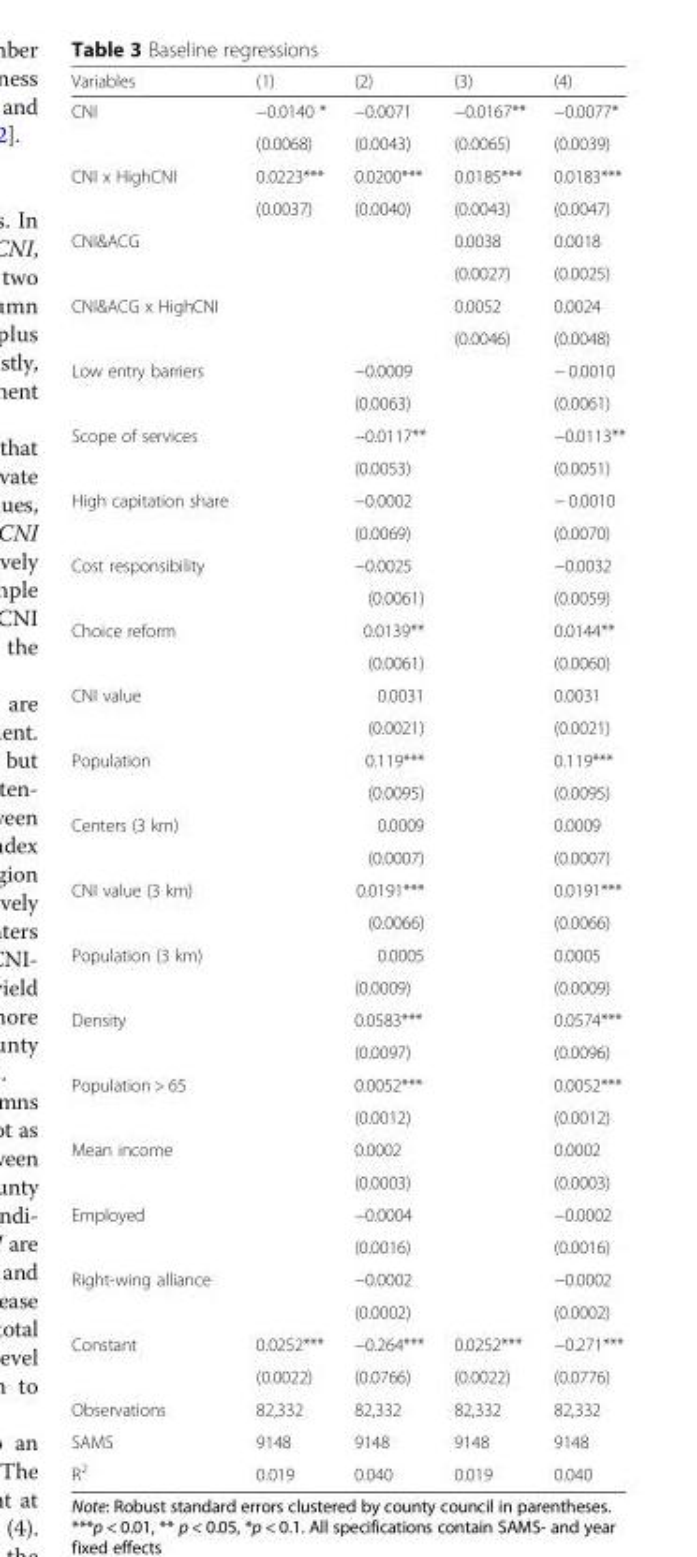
<table><thead><tr><td>Variables</td><td>(1)</td><td>(2)</td><td>(3)</td><td>(4)</td></tr></thead><tbody><tr><td rowspan="2">CNI</td><td>−0.0140 *</td><td>−0.0071</td><td>−0.0167**</td><td>−0.0077*</td></tr><tr><td>(0.0068)</td><td>(0.0043)</td><td>(0.0065)</td><td>(0.0039)</td></tr><tr><td rowspan="2">CNI x HighCNI</td><td>0.0223***</td><td>0.0200***</td><td>0.0185***</td><td>0.0183***</td></tr><tr><td>(0.0037)</td><td>(0.0040)</td><td>(0.0043)</td><td>(0.0047)</td></tr><tr><td rowspan="2">CNI&amp;ACG</td><td></td><td></td><td>0.0038</td><td>0.0018</td></tr><tr><td></td><td></td><td>(0.0027)</td><td>(0.0025)</td></tr><tr><td rowspan="2">CNI&amp;ACG x HighCNI</td><td></td><td></td><td>0.0052</td><td>0.0024</td></tr><tr><td></td><td></td><td>(0.0046)</td><td>(0.0048)</td></tr><tr><td rowspan="2">Low entry barriers</td><td></td><td>−0.0009</td><td></td><td>− 0.0010</td></tr><tr><td></td><td>(0.0063)</td><td></td><td>(0.0061)</td></tr><tr><td rowspan="2">Scope of services</td><td></td><td>−0.0117**</td><td></td><td>−0.0113**</td></tr><tr><td></td><td>(0.0053)</td><td></td><td>(0.0051)</td></tr><tr><td rowspan="2">High capitation share</td><td></td><td>−0.0002</td><td></td><td>− 0.0010</td></tr><tr><td></td><td>(0.0069)</td><td></td><td>(0.0070)</td></tr><tr><td rowspan="2">Cost responsibility</td><td></td><td>−0.0025</td><td></td><td>−0.0032</td></tr><tr><td></td><td>(0.0061)</td><td></td><td>(0.0059)</td></tr><tr><td rowspan="2">Choice reform</td><td></td><td>0.0139**</td><td></td><td>0.0144**</td></tr><tr><td></td><td>(0.0061)</td><td></td><td>(0.0060)</td></tr><tr><td rowspan="2">CNI value</td><td></td><td>0.0031</td><td></td><td>0.0031</td></tr><tr><td></td><td>(0.0021)</td><td></td><td>(0.0021)</td></tr><tr><td rowspan="2">Population</td><td></td><td>0.119***</td><td></td><td>0.119***</td></tr><tr><td></td><td>(0.0095)</td><td></td><td>(0.0095)</td></tr><tr><td rowspan="2">Centers (3 km)</td><td></td><td>0.0009</td><td></td><td>0.0009</td></tr><tr><td></td><td>(0.0007)</td><td></td><td>(0.0007)</td></tr><tr><td rowspan="2">CNI value (3 km)</td><td></td><td>0.0191***</td><td></td><td>0.0191***</td></tr><tr><td></td><td>(0.0066)</td><td></td><td>(0.0066)</td></tr><tr><td rowspan="2">Population (3 km)</td><td></td><td>0.0005</td><td></td><td>0.0005</td></tr><tr><td></td><td>(0.0009)</td><td></td><td>(0.0009)</td></tr><tr><td rowspan="2">Density</td><td></td><td>0.0583***</td><td></td><td>0.0574***</td></tr><tr><td></td><td>(0.0097)</td><td></td><td>(0.0096)</td></tr><tr><td rowspan="2">Population &gt; 65</td><td></td><td>0.0052***</td><td></td><td>0.0052***</td></tr><tr><td></td><td>(0.0012)</td><td></td><td>(0.0012)</td></tr><tr><td rowspan="2">Mean income</td><td></td><td>0.0002</td><td></td><td>0.0002</td></tr><tr><td></td><td>(0.0003)</td><td></td><td>(0.0003)</td></tr><tr><td rowspan="2">Employed</td><td></td><td>−0.0004</td><td></td><td>−0.0002</td></tr><tr><td></td><td>(0.0016)</td><td></td><td>(0.0016)</td></tr><tr><td rowspan="2">Right-wing alliance</td><td></td><td>−0.0002</td><td></td><td>−0.0002</td></tr><tr><td></td><td>(0.0002)</td><td></td><td>(0.0002)</td></tr><tr><td rowspan="2">Constant</td><td>0.0252***</td><td>−0.264***</td><td>0.0252***</td><td>−0.271***</td></tr><tr><td>(0.0022)</td><td>(0.0766)</td><td>(0.0022)</td><td>(0.0776)</td></tr><tr><td>Observations</td><td>82,332</td><td>82,332</td><td>82,332</td><td>82,332</td></tr><tr><td>SAMS</td><td>9148</td><td>9148</td><td>9148</td><td>9148</td></tr><tr><td>R<sup>2</sup></td><td>0.019</td><td>0.040</td><td>0.019</td><td>0.040</td></tr></tbody></table>